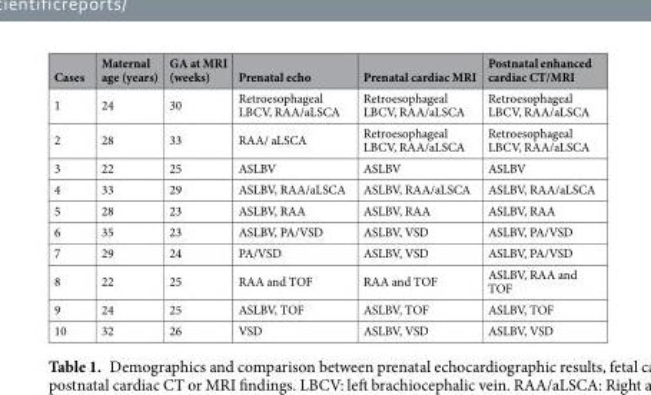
<table><thead><tr><td>Cases</td><td>Maternal age (years)</td><td>GA at MRI (weeks)</td><td>Prenatal echo</td><td>Prenatal cardiac MRI</td><td>Postnatal enhanced cardiac CT/MRI</td></tr></thead><tbody><tr><td>1</td><td>24</td><td>30</td><td>Retroesophageal LBCV, RAA/aLSCA</td><td>Retroesophageal LBCV, RAA/aLSCA</td><td>Retroesophageal LBCV, RAA/aLSCA</td></tr><tr><td>2</td><td>28</td><td>33</td><td>RAA/ aLSCA</td><td>Retroesophageal LBCV, RAA/aLSCA</td><td>Retroesophageal LBCV, RAA/aLSCA</td></tr><tr><td>3</td><td>22</td><td>25</td><td>ASLBV</td><td>ASLBV</td><td>ASLBV</td></tr><tr><td>4</td><td>33</td><td>29</td><td>ASLBV, RAA/aLSCA</td><td>ASLBV, RAA/aLSCA</td><td>ASLBV, RAA/aLSCA</td></tr><tr><td>5</td><td>28</td><td>23</td><td>ASLBV, RAA</td><td>ASLBV, RAA</td><td>ASLBV, RAA</td></tr><tr><td>6</td><td>35</td><td>23</td><td>ASLBV, PA/VSD</td><td>ASLBV, VSD</td><td>ASLBV, PA/VSD</td></tr><tr><td>7</td><td>29</td><td>24</td><td>PA/VSD</td><td>ASLBV, VSD</td><td>ASLBV, PA/VSD</td></tr><tr><td>8</td><td>22</td><td>25</td><td>RAA and TOF</td><td>RAA and TOF</td><td>ASLBV, RAA and TOF</td></tr><tr><td>9</td><td>24</td><td>25</td><td>ASLBV, TOF</td><td>ASLBV, TOF</td><td>ASLBV, TOF</td></tr><tr><td>10</td><td>32</td><td>26</td><td>VSD</td><td>ASLBV, VSD</td><td>ASLBV, VSD</td></tr></tbody></table>